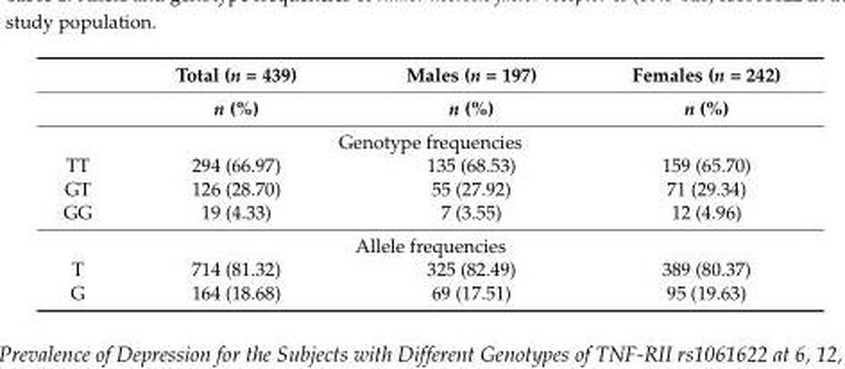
<table><thead><tr><td rowspan="2"></td><td rowspan="2">Total (n = 439) n (%)</td><td rowspan="2">Males (n = 197) n (%)</td><td rowspan="2">Females (n = 242) n (%)</td></tr><tr></tr></thead><tbody><tr><td colspan="4">Genotype frequencies</td></tr><tr><td>TT</td><td>294 (66.97)</td><td>135 (68.53)</td><td>159 (65.70)</td></tr><tr><td>GT</td><td>126 (28.70)</td><td>55 (27.92)</td><td>71 (29.34)</td></tr><tr><td>GG</td><td>19 (4.33)</td><td>7 (3.55)</td><td>12 (4.96)</td></tr><tr><td colspan="4">Allele frequencies</td></tr><tr><td>T</td><td>714 (81.32)</td><td>325 (82.49)</td><td>389 (80.37)</td></tr><tr><td>G</td><td>164 (18.68)</td><td>69 (17.51)</td><td>95 (19.63)</td></tr></tbody></table>